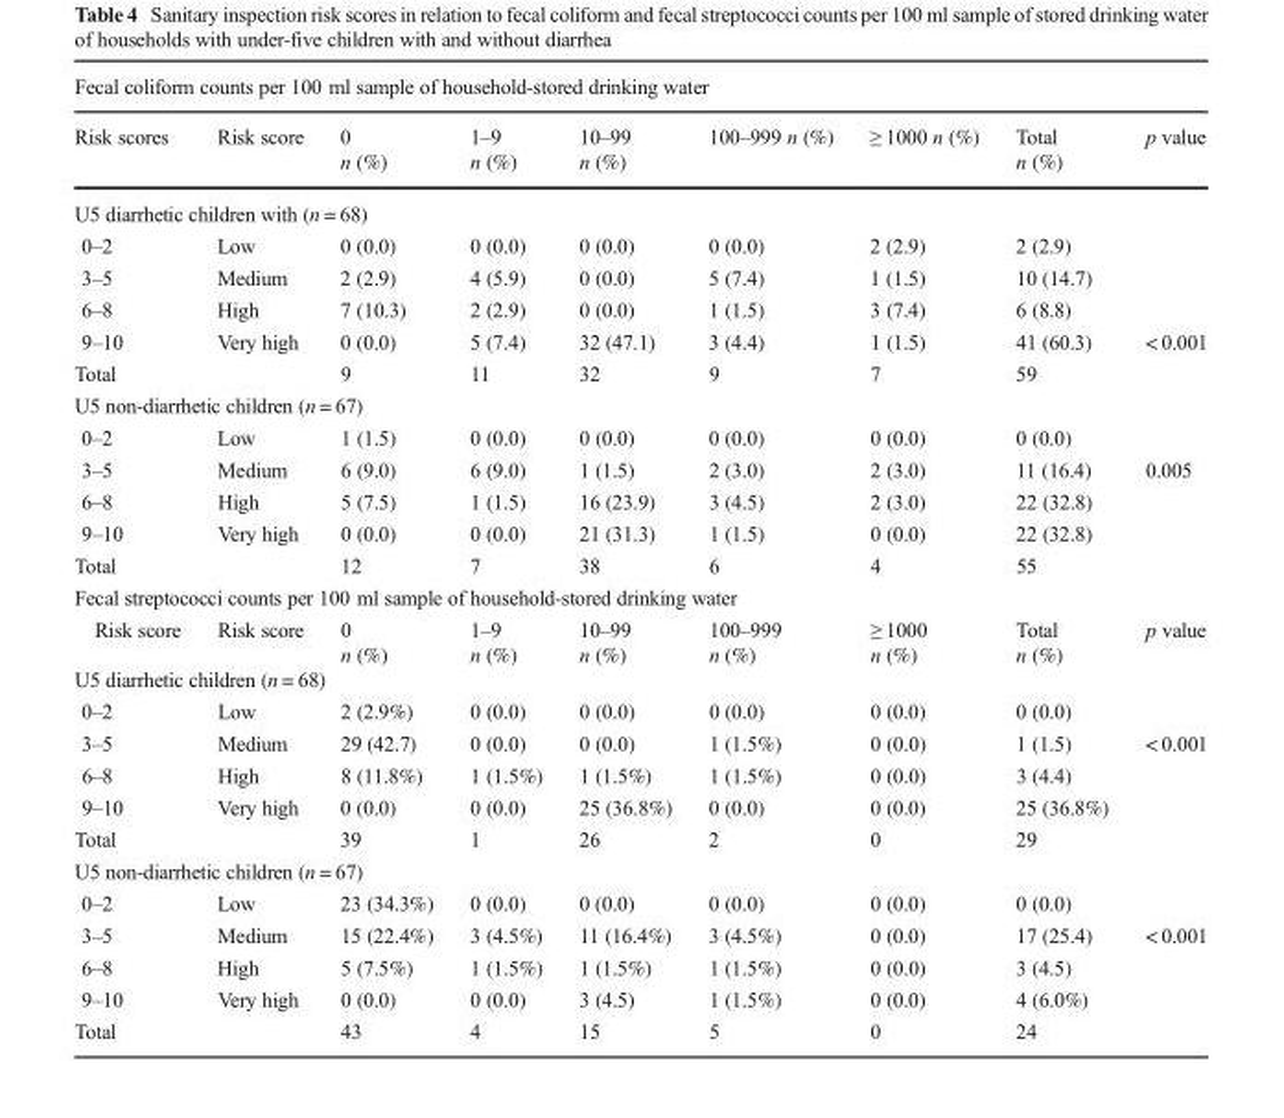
<table><thead><tr><td colspan="9">Fecal coliform counts per 100 ml sample of household-stored drinking water</td></tr><tr><td>Risk scores</td><td>Risk score</td><td>0 n (%)</td><td>1–9 n (%)</td><td>10–99 n (%)</td><td>100–999 n (%)</td><td>≥ 1000 n (%)</td><td>Total n (%)</td><td>p value</td></tr></thead><tbody><tr><td colspan="9">U5 diarrhetic children with (n = 68)</td></tr><tr><td>0–2</td><td>Low</td><td>0 (0.0)</td><td>0 (0.0)</td><td>0 (0.0)</td><td>0 (0.0)</td><td>2 (2.9)</td><td>2 (2.9)</td><td></td></tr><tr><td>3–5</td><td>Medium</td><td>2 (2.9)</td><td>4 (5.9)</td><td>0 (0.0)</td><td>5 (7.4)</td><td>1 (1.5)</td><td>10 (14.7)</td><td></td></tr><tr><td>6–8</td><td>High</td><td>7 (10.3)</td><td>2 (2.9)</td><td>0 (0.0)</td><td>1 (1.5)</td><td>3 (7.4)</td><td>6 (8.8)</td><td></td></tr><tr><td>9–10</td><td>Very high</td><td>0 (0.0)</td><td>5 (7.4)</td><td>32 (47.1)</td><td>3 (4.4)</td><td>1 (1.5)</td><td>41 (60.3)</td><td>&lt; 0.001</td></tr><tr><td>Total</td><td></td><td>9</td><td>11</td><td>32</td><td>9</td><td>7</td><td>59</td><td></td></tr><tr><td colspan="9">U5 non-diarrhetic children (n = 67)</td></tr><tr><td>0–2</td><td>Low</td><td>1 (1.5)</td><td>0 (0.0)</td><td>0 (0.0)</td><td>0 (0.0)</td><td>0 (0.0)</td><td>0 (0.0)</td><td></td></tr><tr><td>3–5</td><td>Medium</td><td>6 (9.0)</td><td>6 (9.0)</td><td>1 (1.5)</td><td>2 (3.0)</td><td>2 (3.0)</td><td>11 (16.4)</td><td>0.005</td></tr><tr><td>6–8</td><td>High</td><td>5 (7.5)</td><td>1 (1.5)</td><td>16 (23.9)</td><td>3 (4.5)</td><td>2 (3.0)</td><td>22 (32.8)</td><td></td></tr><tr><td>9–10</td><td>Very high</td><td>0 (0.0)</td><td>0 (0.0)</td><td>21 (31.3)</td><td>1 (1.5)</td><td>0 (0.0)</td><td>22 (32.8)</td><td></td></tr><tr><td>Total</td><td></td><td>12</td><td>7</td><td>38</td><td>6</td><td>4</td><td>55</td><td></td></tr><tr><td colspan="9">Fecal streptococci counts per 100 ml sample of household-stored drinking water</td></tr><tr><td>Risk score</td><td>Risk score</td><td>0 n (%)</td><td>1–9 n (%)</td><td>10–99 n (%)</td><td>100–999 n (%)</td><td>≥ 1000 n (%)</td><td>Total n (%)</td><td>p value</td></tr><tr><td colspan="9">U5 diarrhetic children (n = 68)</td></tr><tr><td>0–2</td><td>Low</td><td>2 (2.9%)</td><td>0 (0.0)</td><td>0 (0.0)</td><td>0 (0.0)</td><td>0 (0.0)</td><td>0 (0.0)</td><td></td></tr><tr><td>3–5</td><td>Medium</td><td>29 (42.7)</td><td>0 (0.0)</td><td>0 (0.0)</td><td>1 (1.5%)</td><td>0 (0.0)</td><td>1 (1.5)</td><td>&lt; 0.001</td></tr><tr><td>6–8</td><td>High</td><td>8 (11.8%)</td><td>1 (1.5%)</td><td>1 (1.5%)</td><td>1 (1.5%)</td><td>0 (0.0)</td><td>3 (4.4)</td><td></td></tr><tr><td>9–10</td><td>Very high</td><td>0 (0.0)</td><td>0 (0.0)</td><td>25 (36.8%)</td><td>0 (0.0)</td><td>0 (0.0)</td><td>25 (36.8%)</td><td></td></tr><tr><td>Total</td><td></td><td>39</td><td>1</td><td>26</td><td>2</td><td>0</td><td>29</td><td></td></tr><tr><td colspan="9">U5 non-diarrhetic children (n = 67)</td></tr><tr><td>0–2</td><td>Low</td><td>23 (34.3%)</td><td>0 (0.0)</td><td>0 (0.0)</td><td>0 (0.0)</td><td>0 (0.0)</td><td>0 (0.0)</td><td></td></tr><tr><td>3–5</td><td>Medium</td><td>15 (22.4%)</td><td>3 (4.5%)</td><td>11 (16.4%)</td><td>3 (4.5%)</td><td>0 (0.0)</td><td>17 (25.4)</td><td>&lt; 0.001</td></tr><tr><td>6–8</td><td>High</td><td>5 (7.5%)</td><td>1 (1.5%)</td><td>1 (1.5%)</td><td>1 (1.5%)</td><td>0 (0.0)</td><td>3 (4.5)</td><td></td></tr><tr><td>9–10</td><td>Very high</td><td>0 (0.0)</td><td>0 (0.0)</td><td>3 (4.5)</td><td>1 (1.5%)</td><td>0 (0.0)</td><td>4 (6.0%)</td><td></td></tr><tr><td>Total</td><td></td><td>43</td><td>4</td><td>15</td><td>5</td><td>0</td><td>24</td><td></td></tr></tbody></table>